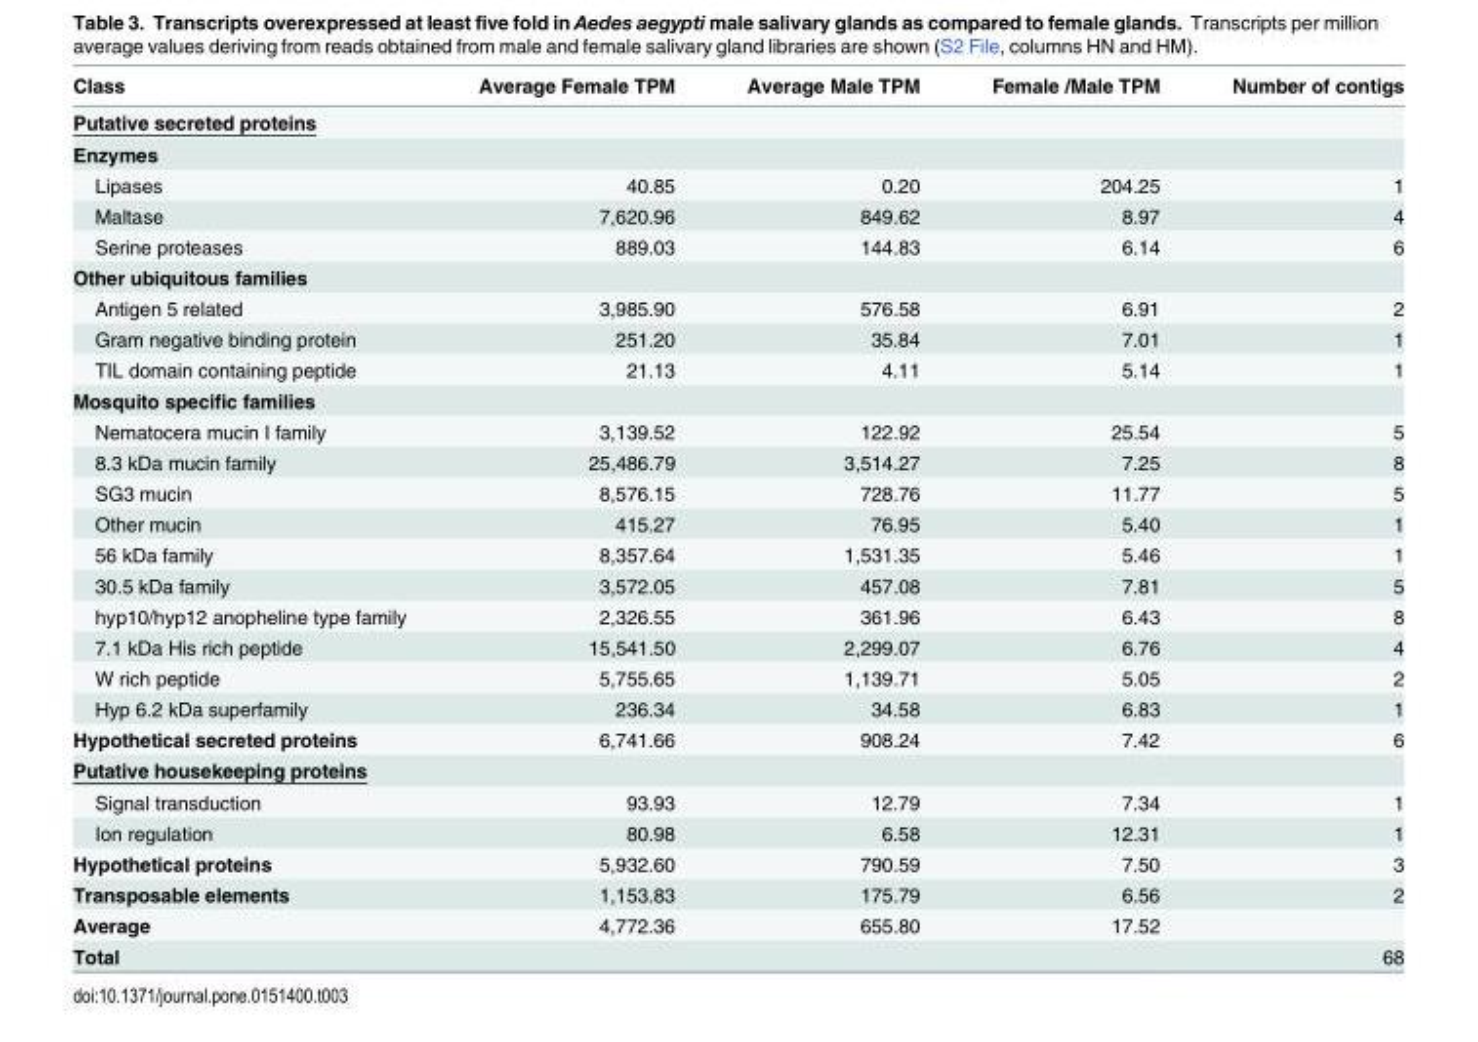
<table><thead><tr><td>Class</td><td>Average Female TPM</td><td>Average Male TPM</td><td>Female /Male TPM</td><td>Number of contigs</td></tr></thead><tbody><tr><td colspan="5">Putative secreted proteins</td></tr><tr><td colspan="5">Enzymes</td></tr><tr><td>Lipases</td><td>40.85</td><td>0.20</td><td>204.25</td><td>1</td></tr><tr><td>Maltase</td><td>7,620.96</td><td>849.62</td><td>8.97</td><td>4</td></tr><tr><td>Serine proteases</td><td>889.03</td><td>144.83</td><td>6.14</td><td>6</td></tr><tr><td colspan="5">Other ubiquitous families</td></tr><tr><td>Antigen 5 related</td><td>3,985.90</td><td>576.58</td><td>6.91</td><td>2</td></tr><tr><td>Gram negative binding protein</td><td>251.20</td><td>35.84</td><td>7.01</td><td>1</td></tr><tr><td>TIL domain containing peptide</td><td>21.13</td><td>4.11</td><td>5.14</td><td>1</td></tr><tr><td colspan="5">Mosquito specific families</td></tr><tr><td>Nematocera mucin I family</td><td>3,139.52</td><td>122.92</td><td>25.54</td><td>5</td></tr><tr><td>8.3 kDa mucin family</td><td>25,486.79</td><td>3,514.27</td><td>7.25</td><td>8</td></tr><tr><td>SG3 mucin</td><td>8,576.15</td><td>728.76</td><td>11.77</td><td>5</td></tr><tr><td>Other mucin</td><td>415.27</td><td>76.95</td><td>5.40</td><td>1</td></tr><tr><td>56 kDa family</td><td>8,357.64</td><td>1,531.35</td><td>5.46</td><td>1</td></tr><tr><td>30.5 kDa family</td><td>3,572.05</td><td>457.08</td><td>7.81</td><td>5</td></tr><tr><td>hyp10/hyp12 anopheline type family</td><td>2,326.55</td><td>361.96</td><td>6.43</td><td>8</td></tr><tr><td>7.1 kDa His rich peptide</td><td>15,541.50</td><td>2,299.07</td><td>6.76</td><td>4</td></tr><tr><td>W rich peptide</td><td>5,755.65</td><td>1,139.71</td><td>5.05</td><td>2</td></tr><tr><td>Hyp 6.2 kDa superfamily</td><td>236.34</td><td>34.58</td><td>6.83</td><td>1</td></tr><tr><td>Hypothetical secreted proteins</td><td>6,741.66</td><td>908.24</td><td>7.42</td><td>6</td></tr><tr><td colspan="5">Putative housekeeping proteins</td></tr><tr><td>Signal transduction</td><td>93.93</td><td>12.79</td><td>7.34</td><td>1</td></tr><tr><td>Ion regulation</td><td>80.98</td><td>6.58</td><td>12.31</td><td>1</td></tr><tr><td>Hypothetical proteins</td><td>5,932.60</td><td>790.59</td><td>7.50</td><td>3</td></tr><tr><td>Transposable elements</td><td>1,153.83</td><td>175.79</td><td>6.56</td><td>2</td></tr><tr><td>Average</td><td>4,772.36</td><td>655.80</td><td>17.52</td><td></td></tr><tr><td>Total</td><td></td><td></td><td></td><td>68</td></tr></tbody></table>